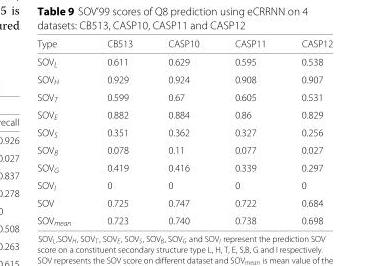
<table><thead><tr><td>Type</td><td>CB513</td><td>CASP10</td><td>CASP11</td><td>CASP12</td></tr></thead><tbody><tr><td>SOV<sub>L</sub></td><td>0.611</td><td>0.629</td><td>0.595</td><td>0.538</td></tr><tr><td>SOV<sub>H</sub></td><td>0.929</td><td>0.924</td><td>0.908</td><td>0.907</td></tr><tr><td>SOV<sub>T</sub></td><td>0.599</td><td>0.67</td><td>0.605</td><td>0.531</td></tr><tr><td>SOV<sub>E</sub></td><td>0.882</td><td>0.884</td><td>0.86</td><td>0.829</td></tr><tr><td>SOV<sub>S</sub></td><td>0.351</td><td>0.362</td><td>0.327</td><td>0.256</td></tr><tr><td>SOV<sub>B</sub></td><td>0.078</td><td>0.11</td><td>0.077</td><td>0.027</td></tr><tr><td>SOV<sub>G</sub></td><td>0.419</td><td>0.416</td><td>0.339</td><td>0.297</td></tr><tr><td>SOV<sub>I</sub></td><td>0</td><td>0</td><td>0</td><td>0</td></tr><tr><td>SOV</td><td>0.725</td><td>0.747</td><td>0.722</td><td>0.684</td></tr><tr><td>SOV<sub>mean</sub></td><td>0.723</td><td>0.740</td><td>0.738</td><td>0.698</td></tr></tbody></table>